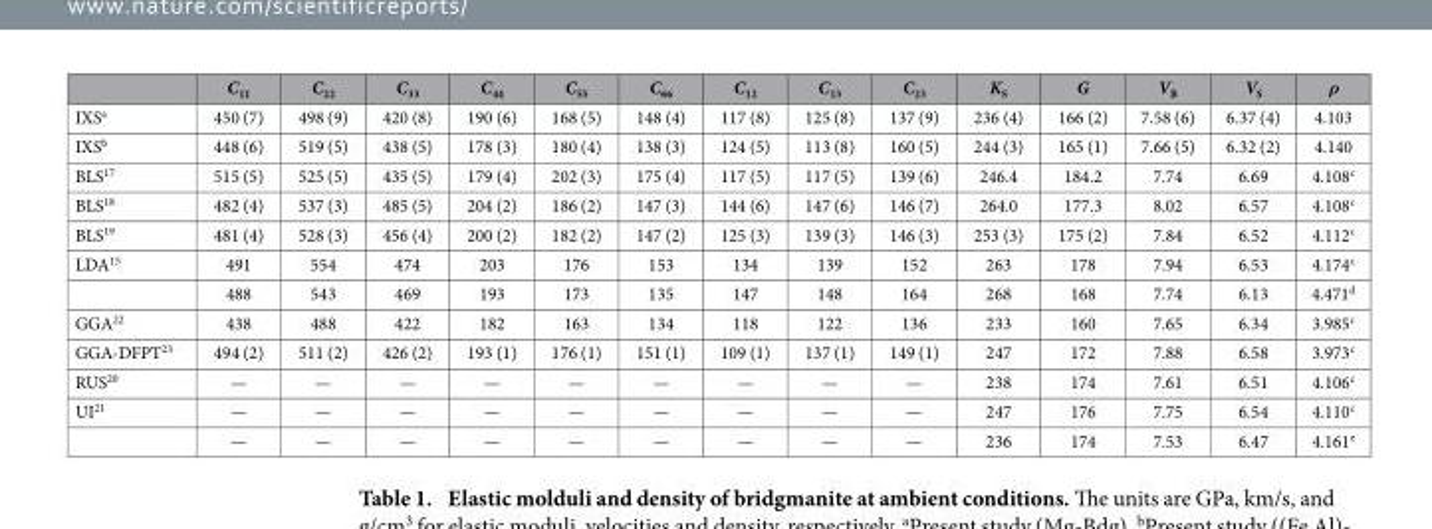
<table><thead><tr><td></td><td>C<sub>11</sub></td><td>C<sub>22</sub></td><td>C<sub>33</sub></td><td>C<sub>44</sub></td><td>C<sub>55</sub></td><td>C<sub>66</sub></td><td>C<sub>12</sub></td><td>C<sub>13</sub></td><td>C<sub>23</sub></td><td>K<sub>S</sub></td><td>G</td><td>V<sub>B</sub></td><td>V<sub>S</sub></td><td>ρ</td></tr></thead><tbody><tr><td>IXS<sup>a</sup></td><td>450 (7)</td><td>498 (9)</td><td>420 (8)</td><td>190 (6)</td><td>168 (5)</td><td>148 (4)</td><td>117 (8)</td><td>125 (8)</td><td>137 (9)</td><td>236 (4)</td><td>166 (2)</td><td>7.58 (6)</td><td>6.37 (4)</td><td>4.103</td></tr><tr><td>IXS<sup>b</sup></td><td>448 (6)</td><td>519 (5)</td><td>438 (5)</td><td>178 (3)</td><td>180 (4)</td><td>138 (3)</td><td>124 (5)</td><td>113 (8)</td><td>160 (5)</td><td>244 (3)</td><td>165 (1)</td><td>7.66 (5)</td><td>6.32 (2)</td><td>4.140</td></tr><tr><td>BLS<sup>17</sup></td><td>515 (5)</td><td>525 (5)</td><td>435 (5)</td><td>179 (4)</td><td>202 (3)</td><td>175 (4)</td><td>117 (5)</td><td>117 (5)</td><td>139 (6)</td><td>246.4</td><td>184.2</td><td>7.74</td><td>6.69</td><td>4.108<sup>c</sup></td></tr><tr><td>BLS<sup>18</sup></td><td>482 (4)</td><td>537 (3)</td><td>485 (5)</td><td>204 (2)</td><td>186 (2)</td><td>147 (3)</td><td>144 (6)</td><td>147 (6)</td><td>146 (7)</td><td>264.0</td><td>177.3</td><td>8.02</td><td>6.57</td><td>4.108<sup>c</sup></td></tr><tr><td>BLS<sup>19</sup></td><td>481 (4)</td><td>528 (3)</td><td>456 (4)</td><td>200 (2)</td><td>182 (2)</td><td>147 (2)</td><td>125 (3)</td><td>139 (3)</td><td>146 (3)</td><td>253 (3)</td><td>175 (2)</td><td>7.84</td><td>6.52</td><td>4.112<sup>c</sup></td></tr><tr><td rowspan="2">LDA<sup>15</sup></td><td>491</td><td>554</td><td>474</td><td>203</td><td>176</td><td>153</td><td>134</td><td>139</td><td>152</td><td>263</td><td>178</td><td>7.94</td><td>6.53</td><td>4.174<sup>c</sup></td></tr><tr><td>488</td><td>543</td><td>469</td><td>193</td><td>173</td><td>135</td><td>147</td><td>148</td><td>164</td><td>268</td><td>168</td><td>7.74</td><td>6.13</td><td>4.471<sup>d</sup></td></tr><tr><td>GGA<sup>22</sup></td><td>438</td><td>488</td><td>422</td><td>182</td><td>163</td><td>134</td><td>118</td><td>122</td><td>136</td><td>233</td><td>160</td><td>7.65</td><td>6.34</td><td>3.985<sup>c</sup></td></tr><tr><td>GGA-DFPT<sup>23</sup></td><td>494 (2)</td><td>511 (2)</td><td>426 (2)</td><td>193 (1)</td><td>176 (1)</td><td>151 (1)</td><td>109 (1)</td><td>137 (1)</td><td>149 (1)</td><td>247</td><td>172</td><td>7.88</td><td>6.58</td><td>3.973<sup>c</sup></td></tr><tr><td>RUS<sup>20</sup></td><td>—</td><td>—</td><td>—</td><td>—</td><td>—</td><td>—</td><td>—</td><td>—</td><td>—</td><td>238</td><td>174</td><td>7.61</td><td>6.51</td><td>4.106<sup>c</sup></td></tr><tr><td rowspan="2">UI<sup>21</sup></td><td>—</td><td>—</td><td>—</td><td>—</td><td>—</td><td>—</td><td>—</td><td>—</td><td>—</td><td>247</td><td>176</td><td>7.75</td><td>6.54</td><td>4.110<sup>c</sup></td></tr><tr><td>—</td><td>—</td><td>—</td><td>—</td><td>—</td><td>—</td><td>—</td><td>—</td><td>—</td><td>236</td><td>174</td><td>7.53</td><td>6.47</td><td>4.161<sup>e</sup></td></tr></tbody></table>